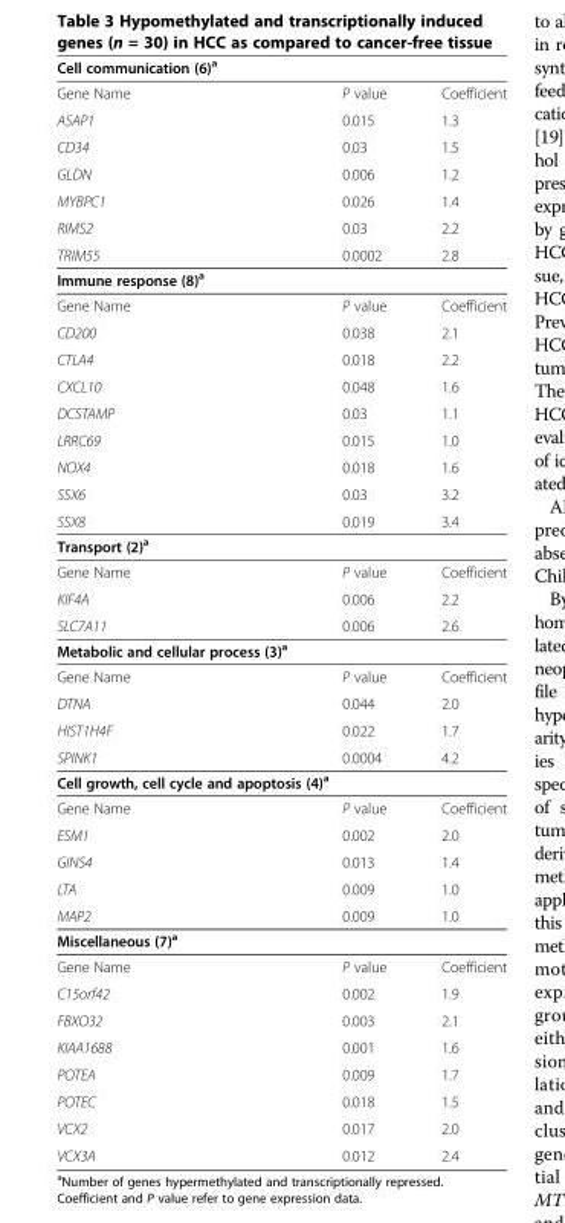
<table><tbody><tr><td colspan="3">Cell communication (6)<sup>a</sup></td></tr><tr><td>Gene Name</td><td>P value</td><td>Coefficient</td></tr><tr><td>ASAP1</td><td>0.015</td><td>1.3</td></tr><tr><td>CD34</td><td>0.03</td><td>1.5</td></tr><tr><td>GLDN</td><td>0.006</td><td>1.2</td></tr><tr><td>MYBPC1</td><td>0.026</td><td>1.4</td></tr><tr><td>RIMS2</td><td>0.03</td><td>2.2</td></tr><tr><td>TRIM55</td><td>0.0002</td><td>2.8</td></tr><tr><td colspan="3">Immune response (8)<sup>a</sup></td></tr><tr><td>Gene Name</td><td>P value</td><td>Coefficient</td></tr><tr><td>CD200</td><td>0.038</td><td>2.1</td></tr><tr><td>CTLA4</td><td>0.018</td><td>2.2</td></tr><tr><td>CXCL10</td><td>0.048</td><td>1.6</td></tr><tr><td>DCSTAMP</td><td>0.03</td><td>1.1</td></tr><tr><td>LRRC69</td><td>0.015</td><td>1.0</td></tr><tr><td>NOX4</td><td>0.018</td><td>1.6</td></tr><tr><td>SSX6</td><td>0.03</td><td>3.2</td></tr><tr><td>SSX8</td><td>0.019</td><td>3.4</td></tr><tr><td colspan="3">Transport (2)<sup>a</sup></td></tr><tr><td>Gene Name</td><td>P value</td><td>Coefficient</td></tr><tr><td>KIF4A</td><td>0.006</td><td>2.2</td></tr><tr><td>SLC7A11</td><td>0.006</td><td>2.6</td></tr><tr><td colspan="3">Metabolic and cellular process (3)<sup>a</sup></td></tr><tr><td>Gene Name</td><td>P value</td><td>Coefficient</td></tr><tr><td>DTNA</td><td>0.044</td><td>2.0</td></tr><tr><td>HIST1H4F</td><td>0.022</td><td>1.7</td></tr><tr><td>SPINK1</td><td>0.0004</td><td>4.2</td></tr><tr><td colspan="3">Cell growth, cell cycle and apoptosis (4)<sup>a</sup></td></tr><tr><td>Gene Name</td><td>P value</td><td>Coefficient</td></tr><tr><td>ESM1</td><td>0.002</td><td>2.0</td></tr><tr><td>GINS4</td><td>0.013</td><td>1.4</td></tr><tr><td>LTA</td><td>0.009</td><td>1.0</td></tr><tr><td>MAP2</td><td>0.009</td><td>1.0</td></tr><tr><td colspan="3">Miscellaneous (7)<sup>a</sup></td></tr><tr><td>Gene Name</td><td>P value</td><td>Coefficient</td></tr><tr><td>C15orf42</td><td>0.002</td><td>1.9</td></tr><tr><td>FBXO32</td><td>0.003</td><td>2.1</td></tr><tr><td>KIAA1688</td><td>0.001</td><td>1.6</td></tr><tr><td>POTEA</td><td>0.009</td><td>1.7</td></tr><tr><td>POTEC</td><td>0.018</td><td>1.5</td></tr><tr><td>VCX2</td><td>0.017</td><td>2.0</td></tr><tr><td>VCX3A</td><td>0.012</td><td>2.4</td></tr></tbody></table>